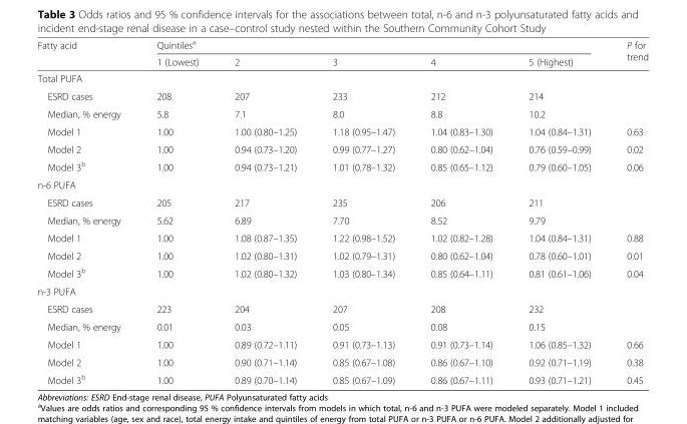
<table><thead><tr><td rowspan="2">Fatty acid</td><td colspan="5">Quintiles<sup>a</sup></td><td rowspan="2">P for trend</td></tr><tr><td>1 (Lowest)</td><td>2</td><td>3</td><td>4</td><td>5 (Highest)</td></tr></thead><tbody><tr><td colspan="7">Total PUFA</td></tr><tr><td>ESRD cases</td><td>208</td><td>207</td><td>233</td><td>212</td><td>214</td><td></td></tr><tr><td>Median, % energy</td><td>5.8</td><td>7.1</td><td>8.0</td><td>8.8</td><td>10.2</td><td></td></tr><tr><td>Model 1</td><td>1.00</td><td>1.00 (0.80–1.25)</td><td>1.18 (0.95–1.47)</td><td>1.04 (0.83–1.30)</td><td>1.04 (0.84–1.31)</td><td>0.63</td></tr><tr><td>Model 2</td><td>1.00</td><td>0.94 (0.73–1.20)</td><td>0.99 (0.77–1.27)</td><td>0.80 (0.62–1.04)</td><td>0.76 (0.59–0.99)</td><td>0.02</td></tr><tr><td>Model 3<sup>b</sup></td><td>1.00</td><td>0.94 (0.73–1.21)</td><td>1.01 (0.78–1.32)</td><td>0.85 (0.65–1.12)</td><td>0.79 (0.60–1.05)</td><td>0.06</td></tr><tr><td colspan="7">n-6 PUFA</td></tr><tr><td>ESRD cases</td><td>205</td><td>217</td><td>235</td><td>206</td><td>211</td><td></td></tr><tr><td>Median, % energy</td><td>5.62</td><td>6.89</td><td>7.70</td><td>8.52</td><td>9.79</td><td></td></tr><tr><td>Model 1</td><td>1.00</td><td>1.08 (0.87–1.35)</td><td>1.22 (0.98–1.52)</td><td>1.02 (0.82–1.28)</td><td>1.04 (0.84–1.31)</td><td>0.88</td></tr><tr><td>Model 2</td><td>1.00</td><td>1.02 (0.80–1.31)</td><td>1.02 (0.79–1.31)</td><td>0.80 (0.62–1.04)</td><td>0.78 (0.60–1.01)</td><td>0.01</td></tr><tr><td>Model 3<sup>b</sup></td><td>1.00</td><td>1.02 (0.80–1.32)</td><td>1.03 (0.80–1.34)</td><td>0.85 (0.64–1.11)</td><td>0.81 (0.61–1.06)</td><td>0.04</td></tr><tr><td colspan="7">n-3 PUFA</td></tr><tr><td>ESRD cases</td><td>223</td><td>204</td><td>207</td><td>208</td><td>232</td><td></td></tr><tr><td>Median, % energy</td><td>0.01</td><td>0.03</td><td>0.05</td><td>0.08</td><td>0.15</td><td></td></tr><tr><td>Model 1</td><td>1.00</td><td>0.89 (0.72–1.11)</td><td>0.91 (0.73–1.13)</td><td>0.91 (0.73–1.14)</td><td>1.06 (0.85–1.32)</td><td>0.66</td></tr><tr><td>Model 2</td><td>1.00</td><td>0.90 (0.71–1.14)</td><td>0.85 (0.67–1.08)</td><td>0.86 (0.67–1.10)</td><td>0.92 (0.71–1.19)</td><td>0.38</td></tr><tr><td>Model 3<sup>b</sup></td><td>1.00</td><td>0.89 (0.70–1.14)</td><td>0.85 (0.67–1.09)</td><td>0.86 (0.67–1.11)</td><td>0.93 (0.71–1.21)</td><td>0.45</td></tr></tbody></table>